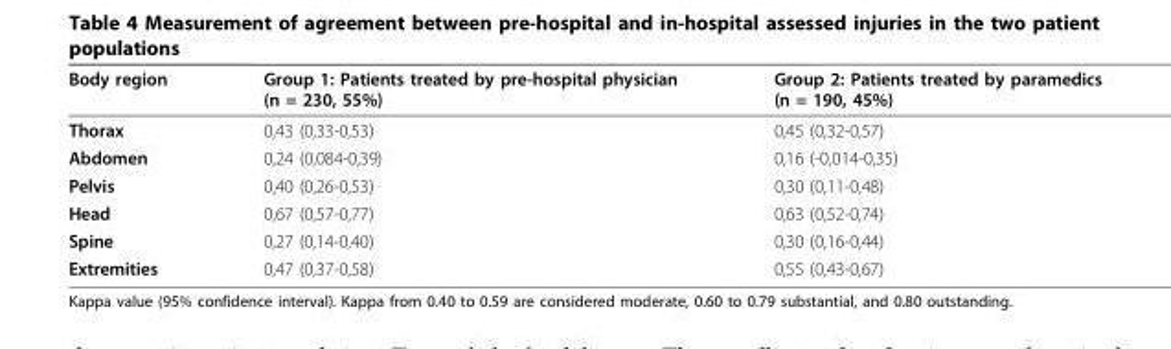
<table><thead><tr><td>Body region</td><td>Group 1: Patients treated by pre-hospital physician (n = 230, 55%)</td><td>Group 2: Patients treated by paramedics (n = 190, 45%)</td></tr></thead><tbody><tr><td>Thorax</td><td>0,43 (0,33-0,53)</td><td>0,45 (0,32-0,57)</td></tr><tr><td>Abdomen</td><td>0,24 (0,084-0,39)</td><td>0,16 (-0,014-0,35)</td></tr><tr><td>Pelvis</td><td>0,40 (0,26-0,53)</td><td>0,30 (0,11-0,48)</td></tr><tr><td>Head</td><td>0,67 (0,57-0,77)</td><td>0,63 (0,52-0,74)</td></tr><tr><td>Spine</td><td>0,27 (0,14-0,40)</td><td>0,30 (0,16-0,44)</td></tr><tr><td>Extremities</td><td>0,47 (0,37-0,58)</td><td>0,55 (0,43-0,67)</td></tr></tbody></table>